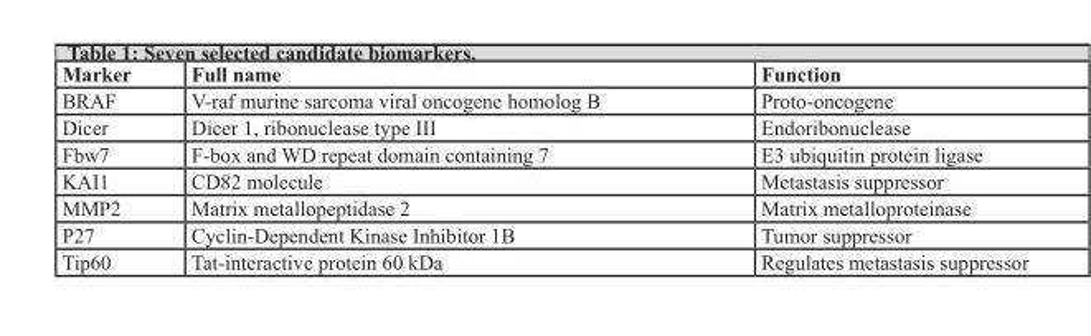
<table><thead><tr><td>Marker</td><td>Full name</td><td>Function</td></tr></thead><tbody><tr><td>BRAF</td><td>V-raf murine sarcoma viral oncogene homolog B</td><td>Proto-oncogene</td></tr><tr><td>Dicer</td><td>Dicer 1, ribonuclease type III</td><td>Endoribonuclease</td></tr><tr><td>Fbw7</td><td>F-box and WD repeat domain containing 7</td><td>E3 ubiquitin protein ligase</td></tr><tr><td>KAI1</td><td>CD82 molecule</td><td>Metastasis suppressor</td></tr><tr><td>MMP2</td><td>Matrix metallopeptidase 2</td><td>Matrix metalloproteinase</td></tr><tr><td>P27</td><td>Cyclin-Dependent Kinase Inhibitor 1B</td><td>Tumor suppressor</td></tr><tr><td>Tip60</td><td>Tat-interactive protein 60 kDa</td><td>Regulates metastasis suppressor</td></tr></tbody></table>